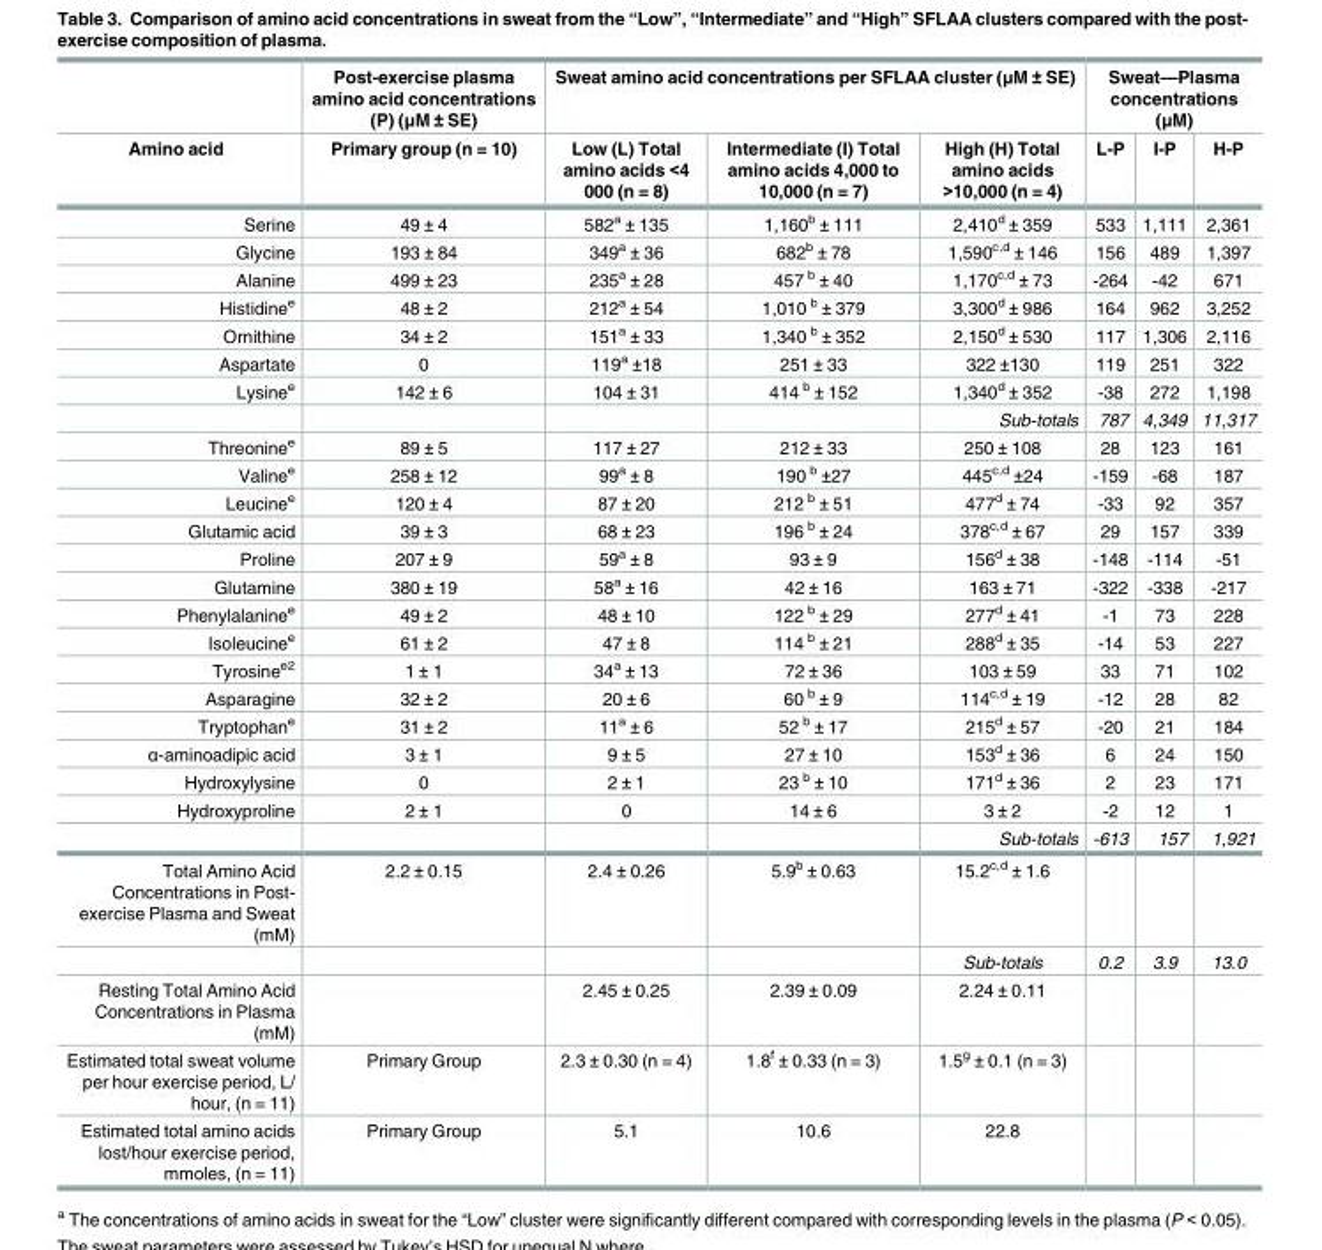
<table><thead><tr><td rowspan="2">Amino acid</td><td rowspan="2">Post-exercise plasma amino acid concentrations (P) (μM ± SE) Primary group (n = 10)</td><td colspan="3">Sweat amino acid concentrations per SFLAA cluster (μM ± SE)</td><td colspan="3">Sweat—Plasma concentrations (μM)</td></tr><tr><td>Low (L) Total amino acids &lt;4 000 (n = 8)</td><td>Intermediate (I) Total amino acids 4,000 to 10,000 (n = 7)</td><td>High (H) Total amino acids &gt;10,000 (n = 4)</td><td>L-P</td><td>I-P</td><td>H-P</td></tr></thead><tbody><tr><td>Serine</td><td>49 ± 4</td><td>582<sup>a</sup> ± 135</td><td>1,160<sup>b</sup> ± 111</td><td>2,410<sup>d</sup> ± 359</td><td>533</td><td>1,111</td><td>2,361</td></tr><tr><td>Glycine</td><td>193 ± 84</td><td>349<sup>a</sup> ± 36</td><td>682<sup>b</sup> ± 78</td><td>1,590<sup>c,d</sup> ± 146</td><td>156</td><td>489</td><td>1,397</td></tr><tr><td>Alanine</td><td>499 ± 23</td><td>235<sup>a</sup> ± 28</td><td>457 <sup>b</sup> ± 40</td><td>1,170<sup>c,d</sup> ± 73</td><td>-264</td><td>-42</td><td>671</td></tr><tr><td>Histidine<sup>e</sup></td><td>48 ± 2</td><td>212<sup>a</sup> ± 54</td><td>1,010 <sup>b</sup> ± 379</td><td>3,300<sup>d</sup> ± 986</td><td>164</td><td>962</td><td>3,252</td></tr><tr><td>Ornithine</td><td>34 ± 2</td><td>151<sup>a</sup> ± 33</td><td>1,340 <sup>b</sup> ± 352</td><td>2,150<sup>d</sup> ± 530</td><td>117</td><td>1,306</td><td>2,116</td></tr><tr><td>Aspartate</td><td>0</td><td>119<sup>a</sup> ±18</td><td>251 ± 33</td><td>322 ±130</td><td>119</td><td>251</td><td>322</td></tr><tr><td rowspan="2">Lysine<sup>e</sup></td><td>142 ± 6</td><td>104 ± 31</td><td>414 <sup>b</sup> ± 152</td><td>1,340<sup>d</sup> ± 352</td><td>-38</td><td>272</td><td>1,198</td></tr><tr><td></td><td></td><td></td><td>Sub-totals</td><td>787</td><td>4,349</td><td>11,317</td></tr><tr><td>Threonine<sup>e</sup></td><td>89 ± 5</td><td>117 ± 27</td><td>212 ± 33</td><td>250 ± 108</td><td>28</td><td>123</td><td>161</td></tr><tr><td>Valine<sup>e</sup></td><td>258 ± 12</td><td>99<sup>a</sup> ± 8</td><td>190 <sup>b</sup> ±27</td><td>445<sup>c,d</sup> ±24</td><td>-159</td><td>-68</td><td>187</td></tr><tr><td>Leucine<sup>e</sup></td><td>120 ± 4</td><td>87 ± 20</td><td>212 <sup>b</sup> ± 51</td><td>477<sup>d</sup> ± 74</td><td>-33</td><td>92</td><td>357</td></tr><tr><td>Glutamic acid</td><td>39 ± 3</td><td>68 ± 23</td><td>196 <sup>b</sup> ± 24</td><td>378<sup>c,d</sup> ± 67</td><td>29</td><td>157</td><td>339</td></tr><tr><td>Proline</td><td>207 ± 9</td><td>59<sup>a</sup> ± 8</td><td>93 ± 9</td><td>156<sup>d</sup> ± 38</td><td>-148</td><td>-114</td><td>-51</td></tr><tr><td>Glutamine</td><td>380 ± 19</td><td>58<sup>a</sup> ± 16</td><td>42 ± 16</td><td>163 ± 71</td><td>-322</td><td>-338</td><td>-217</td></tr><tr><td>Phenylalanine<sup>e</sup></td><td>49 ± 2</td><td>48 ± 10</td><td>122 <sup>b</sup> ± 29</td><td>277<sup>d</sup> ± 41</td><td>-1</td><td>73</td><td>228</td></tr><tr><td>Isoleucine<sup>e</sup></td><td>61 ± 2</td><td>47 ± 8</td><td>114 <sup>b</sup> ± 21</td><td>288<sup>d</sup> ± 35</td><td>-14</td><td>53</td><td>227</td></tr><tr><td>Tyrosine<sup>e2</sup></td><td>1 ± 1</td><td>34<sup>a</sup> ± 13</td><td>72 ± 36</td><td>103 ± 59</td><td>33</td><td>71</td><td>102</td></tr><tr><td>Asparagine</td><td>32 ± 2</td><td>20 ± 6</td><td>60 <sup>b</sup> ± 9</td><td>114<sup>c,d</sup> ± 19</td><td>-12</td><td>28</td><td>82</td></tr><tr><td>Tryptophan<sup>e</sup></td><td>31 ± 2</td><td>11<sup>a</sup> ± 6</td><td>52 <sup>b</sup> ± 17</td><td>215<sup>d</sup> ± 57</td><td>-20</td><td>21</td><td>184</td></tr><tr><td>α-aminoadipic acid</td><td>3 ± 1</td><td>9 ± 5</td><td>27 ± 10</td><td>153<sup>d</sup> ± 36</td><td>6</td><td>24</td><td>150</td></tr><tr><td>Hydroxylysine</td><td>0</td><td>2 ± 1</td><td>23 <sup>b</sup> ± 10</td><td>171<sup>d</sup> ± 36</td><td>2</td><td>23</td><td>171</td></tr><tr><td rowspan="2">Hydroxyproline</td><td>2 ± 1</td><td>0</td><td>14 ± 6</td><td>3 ± 2</td><td>-2</td><td>12</td><td>1</td></tr><tr><td></td><td></td><td></td><td>Sub-totals</td><td>-613</td><td>157</td><td>1,921</td></tr><tr><td rowspan="2">Total Amino Acid Concentrations in Post- exercise Plasma and Sweat (mM)</td><td>2.2 ± 0.15</td><td>2.4 ± 0.26</td><td>5.9<sup>b</sup> ± 0.63</td><td>15.2<sup>c,d</sup> ± 1.6</td><td></td><td></td><td></td></tr><tr><td></td><td></td><td></td><td>Sub-totals</td><td>0.2</td><td>3.9</td><td>13.0</td></tr><tr><td>Resting Total Amino Acid Concentrations in Plasma (mM)</td><td></td><td>2.45 ± 0.25</td><td>2.39 ± 0.09</td><td>2.24 ± 0.11</td><td></td><td></td><td></td></tr><tr><td>Estimated total sweat volume per hour exercise period, L/ hour, (n = 11)</td><td>Primary Group</td><td>2.3 ± 0.30 (n = 4)</td><td>1.8<sup>f</sup> ± 0.33 (n = 3)</td><td>1.5<sup>g</sup> ± 0.1 (n = 3)</td><td></td><td></td><td></td></tr><tr><td>Estimated total amino acids lost/hour exercise period, mmoles, (n = 11)</td><td>Primary Group</td><td>5.1</td><td>10.6</td><td>22.8</td><td></td><td></td><td></td></tr></tbody></table>